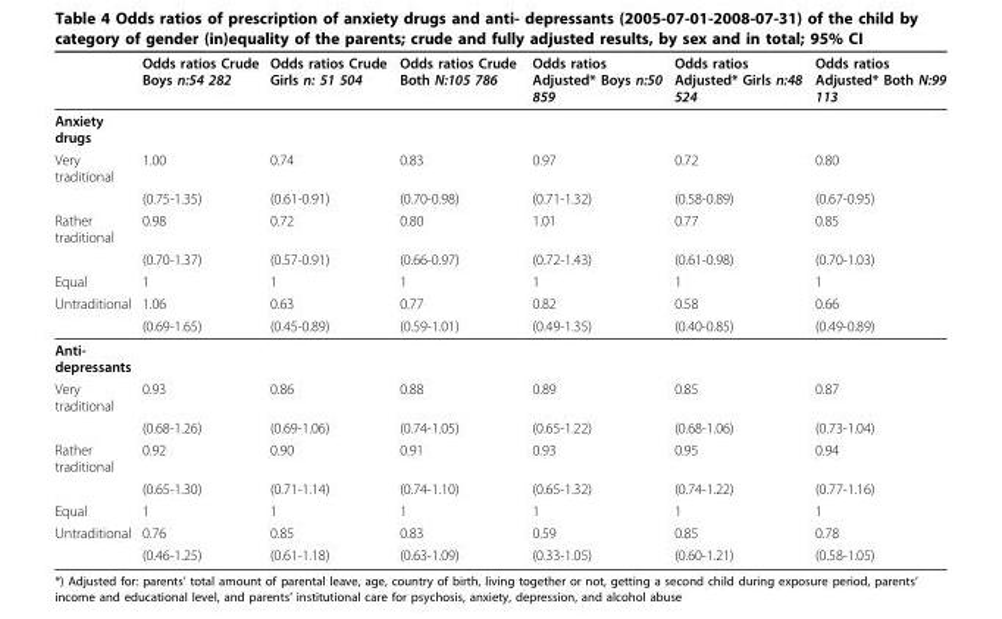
<table><thead><tr><td></td><td>Odds ratios Crude Boys n:54 282</td><td>Odds ratios Crude Girls n: 51 504</td><td>Odds ratios Crude Both N:105 786</td><td>Odds ratios Adjusted* Boys n:50 859</td><td>Odds ratios Adjusted* Girls n:48 524</td><td>Odds ratios Adjusted* Both N:99 113</td></tr></thead><tbody><tr><td colspan="7">Anxiety drugs</td></tr><tr><td rowspan="2">Very traditional</td><td>1.00</td><td>0.74</td><td>0.83</td><td>0.97</td><td>0.72</td><td>0.80</td></tr><tr><td>(0.75-1.35)</td><td>(0.61-0.91)</td><td>(0.70-0.98)</td><td>(0.71-1.32)</td><td>(0.58-0.89)</td><td>(0.67-0.95)</td></tr><tr><td rowspan="2">Rather traditional</td><td>0.98</td><td>0.72</td><td>0.80</td><td>1.01</td><td>0.77</td><td>0.85</td></tr><tr><td>(0.70-1.37)</td><td>(0.57-0.91)</td><td>(0.66-0.97)</td><td>(0.72-1.43)</td><td>(0.61-0.98)</td><td>(0.70-1.03)</td></tr><tr><td>Equal</td><td>1</td><td>1</td><td>1</td><td>1</td><td>1</td><td>1</td></tr><tr><td rowspan="2">Untraditional</td><td>1.06</td><td>0.63</td><td>0.77</td><td>0.82</td><td>0.58</td><td>0.66</td></tr><tr><td>(0.69-1.65)</td><td>(0.45-0.89)</td><td>(0.59-1.01)</td><td>(0.49-1.35)</td><td>(0.40-0.85)</td><td>(0.49-0.89)</td></tr><tr><td colspan="7">Anti- depressants</td></tr><tr><td rowspan="2">Very traditional</td><td>0.93</td><td>0.86</td><td>0.88</td><td>0.89</td><td>0.85</td><td>0.87</td></tr><tr><td>(0.68-1.26)</td><td>(0.69-1.06)</td><td>(0.74-1.05)</td><td>(0.65-1.22)</td><td>(0.68-1.06)</td><td>(0.73-1.04)</td></tr><tr><td rowspan="2">Rather traditional</td><td>0.92</td><td>0.90</td><td>0.91</td><td>0.93</td><td>0.95</td><td>0.94</td></tr><tr><td>(0.65-1.30)</td><td>(0.71-1.14)</td><td>(0.74-1.10)</td><td>(0.65-1.32)</td><td>(0.74-1.22)</td><td>(0.77-1.16)</td></tr><tr><td>Equal</td><td>1</td><td>1</td><td>1</td><td>1</td><td>1</td><td>1</td></tr><tr><td rowspan="2">Untraditional</td><td>0.76</td><td>0.85</td><td>0.83</td><td>0.59</td><td>0.85</td><td>0.78</td></tr><tr><td>(0.46-1.25)</td><td>(0.61-1.18)</td><td>(0.63-1.09)</td><td>(0.33-1.05)</td><td>(0.60-1.21)</td><td>(0.58-1.05)</td></tr></tbody></table>